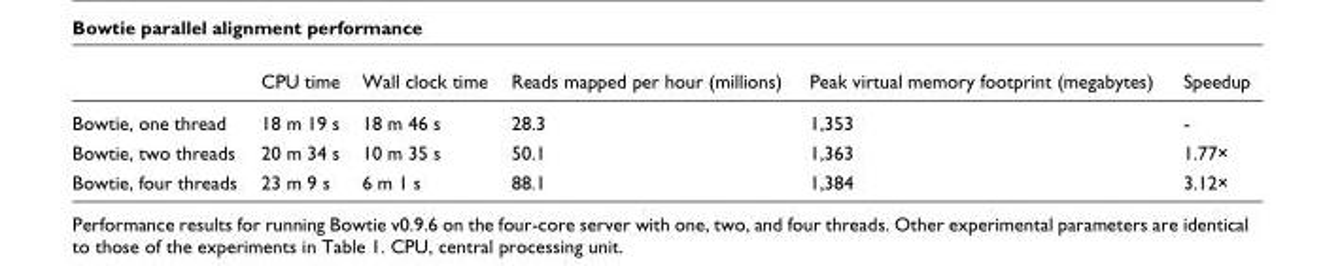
<table><thead><tr><td></td><td>CPU time</td><td>Wall clock time</td><td>Reads mapped per hour (millions)</td><td>Peak virtual memory footprint (megabytes)</td><td>Speedup</td></tr></thead><tbody><tr><td>Bowtie, one thread</td><td>18 m 19 s</td><td>18 m 46 s</td><td>28.3</td><td>1,353</td><td>-</td></tr><tr><td>Bowtie, two threads</td><td>20 m 34 s</td><td>10 m 35 s</td><td>50.1</td><td>1,363</td><td>1.77×</td></tr><tr><td>Bowtie, four threads</td><td>23 m 9 s</td><td>6 m 1 s</td><td>88.1</td><td>1,384</td><td>3.12×</td></tr></tbody></table>